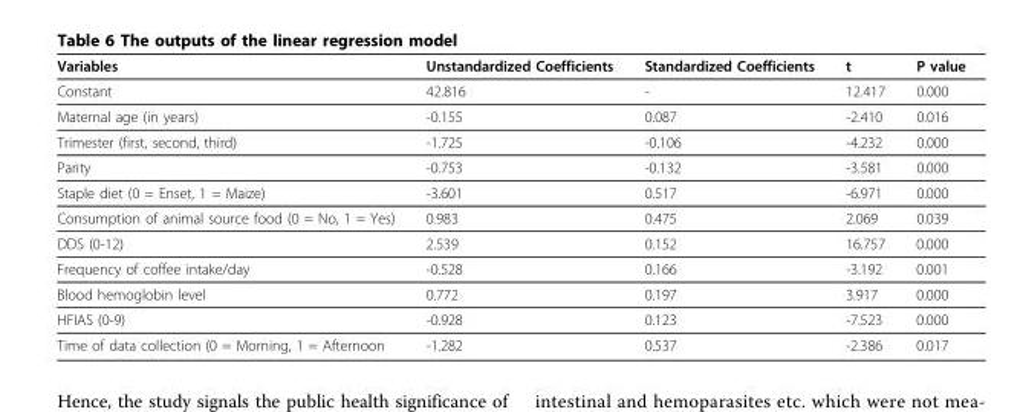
<table><thead><tr><td>Variables</td><td>Unstandardized Coefficients</td><td>Standardized Coefficients</td><td>t</td><td>P value</td></tr></thead><tbody><tr><td>Constant</td><td>42.816</td><td>-</td><td>12.417</td><td>0.000</td></tr><tr><td>Maternal age (in years)</td><td>-0.155</td><td>0.087</td><td>-2.410</td><td>0.016</td></tr><tr><td>Trimester (first, second, third)</td><td>-1.725</td><td>-0.106</td><td>-4.232</td><td>0.000</td></tr><tr><td>Parity</td><td>-0.753</td><td>-0.132</td><td>-3.581</td><td>0.000</td></tr><tr><td>Staple diet (0 = Enset, 1 = Maize)</td><td>-3.601</td><td>0.517</td><td>-6.971</td><td>0.000</td></tr><tr><td>Consumption of animal source food (0 = No, 1 = Yes)</td><td>0.983</td><td>0.475</td><td>2.069</td><td>0.039</td></tr><tr><td>DDS (0-12)</td><td>2.539</td><td>0.152</td><td>16.757</td><td>0.000</td></tr><tr><td>Frequency of coffee intake/day</td><td>-0.528</td><td>0.166</td><td>-3.192</td><td>0.001</td></tr><tr><td>Blood hemoglobin level</td><td>0.772</td><td>0.197</td><td>3.917</td><td>0.000</td></tr><tr><td>HFIAS (0-9)</td><td>-0.928</td><td>0.123</td><td>-7.523</td><td>0.000</td></tr><tr><td>Time of data collection (0 = Morning, 1 = Afternoon</td><td>-1.282</td><td>0.537</td><td>-2.386</td><td>0.017</td></tr></tbody></table>